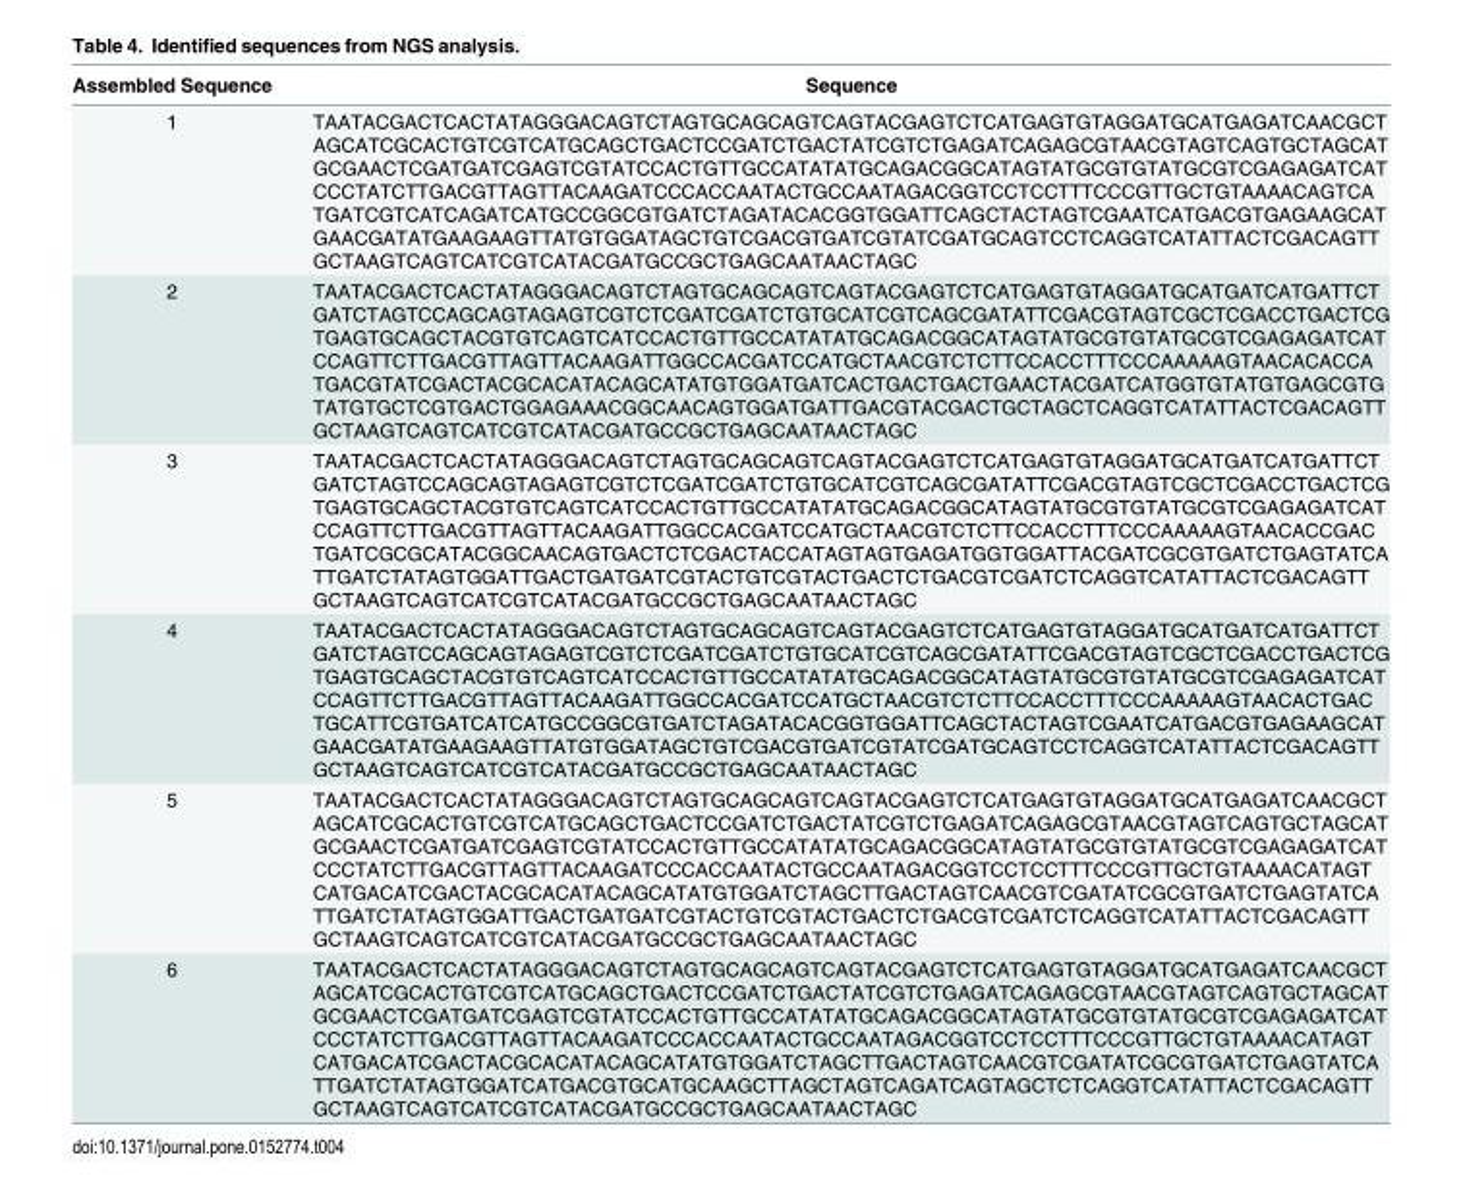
<table><thead><tr><td>Assembled Sequence</td><td>Sequence</td></tr></thead><tbody><tr><td>1</td><td>TAATACGACTCACTATAGGGACAGTCTAGTGCAGCAGTCAGTACGAGTCTCATGAGTGTAGGATGCATGAGATCAACGCT AGCATCGCACTGTCGTCATGCAGCTGACTCCGATCTGACTATCGTCTGAGATCAGAGCGTAACGTAGTCAGTGCTAGCAT GCGAACTCGATGATCGAGTCGTATCCACTGTTGCCATATATGCAGACGGCATAGTATGCGTGTATGCGTCGAGAGATCAT CCCTATCTTGACGTTAGTTACAAGATCCCACCAATACTGCCAATAGACGGTCCTCCTTTCCCGTTGCTGTAAAACAGTCA TGATCGTCATCAGATCATGCCGGCGTGATCTAGATACACGGTGGATTCAGCTACTAGTCGAATCATGACGTGAGAAGCAT GAACGATATGAAGAAGTTATGTGGATAGCTGTCGACGTGATCGTATCGATGCAGTCCTCAGGTCATATTACTCGACAGTT GCTAAGTCAGTCATCGTCATACGATGCCGCTGAGCAATAACTAGC</td></tr><tr><td>2</td><td>TAATACGACTCACTATAGGGACAGTCTAGTGCAGCAGTCAGTACGAGTCTCATGAGTGTAGGATGCATGATCATGATTCT GATCTAGTCCAGCAGTAGAGTCGTCTCGATCGATCTGTGCATCGTCAGCGATATTCGACGTAGTCGCTCGACCTGACTCG TGAGTGCAGCTACGTGTCAGTCATCCACTGTTGCCATATATGCAGACGGCATAGTATGCGTGTATGCGTCGAGAGATCAT CCAGTTCTTGACGTTAGTTACAAGATTGGCCACGATCCATGCTAACGTCTCTTCCACCTTTCCCAAAAAGTAACACACCA TGACGTATCGACTACGCACATACAGCATATGTGGATGATCACTGACTGACTGAACTACGATCATGGTGTATGTGAGCGTG TATGTGCTCGTGACTGGAGAAACGGCAACAGTGGATGATTGACGTACGACTGCTAGCTCAGGTCATATTACTCGACAGTT GCTAAGTCAGTCATCGTCATACGATGCCGCTGAGCAATAACTAGC</td></tr><tr><td>3</td><td>TAATACGACTCACTATAGGGACAGTCTAGTGCAGCAGTCAGTACGAGTCTCATGAGTGTAGGATGCATGATCATGATTCT GATCTAGTCCAGCAGTAGAGTCGTCTCGATCGATCTGTGCATCGTCAGCGATATTCGACGTAGTCGCTCGACCTGACTCG TGAGTGCAGCTACGTGTCAGTCATCCACTGTTGCCATATATGCAGACGGCATAGTATGCGTGTATGCGTCGAGAGATCAT CCAGTTCTTGACGTTAGTTACAAGATTGGCCACGATCCATGCTAACGTCTCTTCCACCTTTCCCAAAAAGTAACACCGAC TGATCGCGCATACGGCAACAGTGACTCTCGACTACCATAGTAGTGAGATGGTGGATTACGATCGCGTGATCTGAGTATCA TTGATCTATAGTGGATTGACTGATGATCGTACTGTCGTACTGACTCTGACGTCGATCTCAGGTCATATTACTCGACAGTT GCTAAGTCAGTCATCGTCATACGATGCCGCTGAGCAATAACTAGC</td></tr><tr><td>4</td><td>TAATACGACTCACTATAGGGACAGTCTAGTGCAGCAGTCAGTACGAGTCTCATGAGTGTAGGATGCATGATCATGATTCT GATCTAGTCCAGCAGTAGAGTCGTCTCGATCGATCTGTGCATCGTCAGCGATATTCGACGTAGTCGCTCGACCTGACTCG TGAGTGCAGCTACGTGTCAGTCATCCACTGTTGCCATATATGCAGACGGCATAGTATGCGTGTATGCGTCGAGAGATCAT CCAGTTCTTGACGTTAGTTACAAGATTGGCCACGATCCATGCTAACGTCTCTTCCACCTTTCCCAAAAAGTAACACTGAC TGCATTCGTGATCATCATGCCGGCGTGATCTAGATACACGGTGGATTCAGCTACTAGTCGAATCATGACGTGAGAAGCAT GAACGATATGAAGAAGTTATGTGGATAGCTGTCGACGTGATCGTATCGATGCAGTCCTCAGGTCATATTACTCGACAGTT GCTAAGTCAGTCATCGTCATACGATGCCGCTGAGCAATAACTAGC</td></tr><tr><td>5</td><td>TAATACGACTCACTATAGGGACAGTCTAGTGCAGCAGTCAGTACGAGTCTCATGAGTGTAGGATGCATGAGATCAACGCT AGCATCGCACTGTCGTCATGCAGCTGACTCCGATCTGACTATCGTCTGAGATCAGAGCGTAACGTAGTCAGTGCTAGCAT GCGAACTCGATGATCGAGTCGTATCCACTGTTGCCATATATGCAGACGGCATAGTATGCGTGTATGCGTCGAGAGATCAT CCCTATCTTGACGTTAGTTACAAGATCCCACCAATACTGCCAATAGACGGTCCTCCTTTCCCGTTGCTGTAAAACATAGT CATGACATCGACTACGCACATACAGCATATGTGGATCTAGCTTGACTAGTCAACGTCGATATCGCGTGATCTGAGTATCA TTGATCTATAGTGGATTGACTGATGATCGTACTGTCGTACTGACTCTGACGTCGATCTCAGGTCATATTACTCGACAGTT GCTAAGTCAGTCATCGTCATACGATGCCGCTGAGCAATAACTAGC</td></tr><tr><td>6</td><td>TAATACGACTCACTATAGGGACAGTCTAGTGCAGCAGTCAGTACGAGTCTCATGAGTGTAGGATGCATGAGATCAACGCT AGCATCGCACTGTCGTCATGCAGCTGACTCCGATCTGACTATCGTCTGAGATCAGAGCGTAACGTAGTCAGTGCTAGCAT GCGAACTCGATGATCGAGTCGTATCCACTGTTGCCATATATGCAGACGGCATAGTATGCGTGTATGCGTCGAGAGATCAT CCCTATCTTGACGTTAGTTACAAGATCCCACCAATACTGCCAATAGACGGTCCTCCTTTCCCGTTGCTGTAAAACATAGT CATGACATCGACTACGCACATACAGCATATGTGGATCTAGCTTGACTAGTCAACGTCGATATCGCGTGATCTGAGTATCA TTGATCTATAGTGGATCATGACGTGCATGCAAGCTTAGCTAGTCAGATCAGTAGCTCTCAGGTCATATTACTCGACAGTT GCTAAGTCAGTCATCGTCATACGATGCCGCTGAGCAATAACTAGC</td></tr></tbody></table>